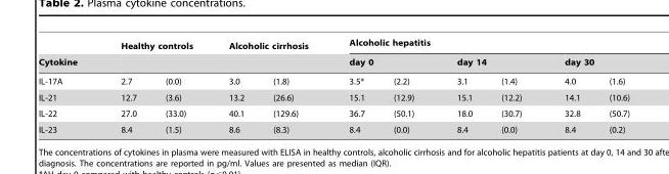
<table><thead><tr><td rowspan="3">Cytokine IL-17A</td><td colspan="2">Healthy controls</td><td colspan="2">Alcoholic cirrhosis</td><td colspan="6">Alcoholic hepatitis</td></tr><tr><td rowspan="2">2.7</td><td rowspan="2">(0.0)</td><td rowspan="2">3.0</td><td rowspan="2">(1.8)</td><td colspan="2">day 0</td><td colspan="2">day 14</td><td colspan="2">day 30</td></tr><tr><td>3.5*</td><td>(2.2)</td><td>3.1</td><td>(1.4)</td><td>4.0</td><td>(1.6)</td></tr></thead><tbody><tr><td>IL-21</td><td>12.7</td><td>(3.6)</td><td>13.2</td><td>(26.6)</td><td>15.1</td><td>(12.9)</td><td>15.1</td><td>(12.2)</td><td>14.1</td><td>(10.6)</td></tr><tr><td>IL-22</td><td>27.0</td><td>(33.0)</td><td>40.1</td><td>(129.6)</td><td>36.7</td><td>(50.1)</td><td>18.0</td><td>(30.7)</td><td>32.8</td><td>(50.7)</td></tr><tr><td>IL-23</td><td>8.4</td><td>(1.5)</td><td>8.6</td><td>(8.3)</td><td>8.4</td><td>(0.0)</td><td>8.4</td><td>(0.0)</td><td>8.4</td><td>(0.2)</td></tr></tbody></table>